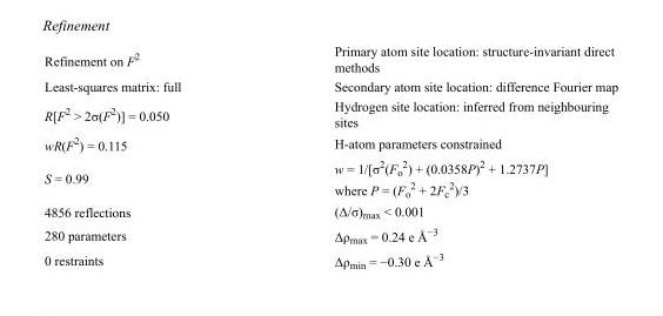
<table><tbody><tr><td>Refinement on F<sup>2</sup></td><td>Primary atom site location: structure-invariant direct methods</td></tr><tr><td>Least-squares matrix: full</td><td>Secondary atom site location: difference Fourier map</td></tr><tr><td>R[F<sup>2</sup> &gt; 2σ(F<sup>2</sup>)] = 0.050</td><td>Hydrogen site location: inferred from neighbouring sites</td></tr><tr><td>wR(F<sup>2</sup>) = 0.115</td><td>H-atom parameters constrained</td></tr><tr><td>S = 0.99</td><td>w = 1/[σ<sup>2</sup>(F<sub>o</sub> <sup>2</sup>) + (0.0358P)<sup>2</sup> + 1.2737P] where P = (F<sub>o</sub> <sup>2</sup> + 2F<sub>c</sub> <sup>2</sup>)/3</td></tr><tr><td>4856 reflections</td><td>(Δ/σ)<sub>max</sub> &lt; 0.001</td></tr><tr><td>280 parameters</td><td>Δρ<sub>max</sub> = 0.24 e Å<sup>−3</sup></td></tr><tr><td>0 restraints</td><td>Δρ<sub>min</sub> = −0.30 e Å<sup>−3</sup></td></tr></tbody></table>